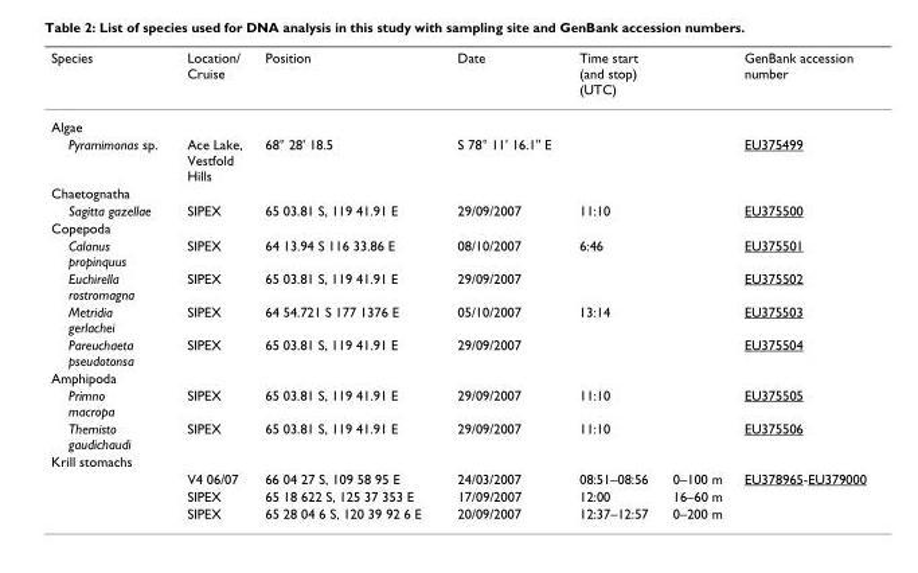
<table><thead><tr><td>Species</td><td>Location/ Cruise</td><td>Position</td><td>Date</td><td>Time start (and stop) (UTC)</td><td></td><td>GenBank accession number</td></tr></thead><tbody><tr><td colspan="7">Algae</td></tr><tr><td>Pyramimonas sp.</td><td>Ace Lake, Vestfold Hills</td><td>68° 28&#x27; 18.5</td><td>S 78° 11&#x27; 16.1&quot; E</td><td></td><td></td><td>EU375499</td></tr><tr><td colspan="7">Chaetognatha</td></tr><tr><td>Sagitta gazellae</td><td>SIPEX</td><td>65 03.81 S, 119 41.91 E</td><td>29/09/2007</td><td>11:10</td><td></td><td>EU375500</td></tr><tr><td colspan="7">Copepoda</td></tr><tr><td>Calanus propinquus</td><td>SIPEX</td><td>64 13.94 S 116 33.86 E</td><td>08/10/2007</td><td>6:46</td><td></td><td>EU375501</td></tr><tr><td>Euchirella rostromagna</td><td>SIPEX</td><td>65 03.81 S, 119 41.91 E</td><td>29/09/2007</td><td></td><td></td><td>EU375502</td></tr><tr><td>Metridia gerlachei</td><td>SIPEX</td><td>64 54.721 S 177 1376 E</td><td>05/10/2007</td><td>13:14</td><td></td><td>EU375503</td></tr><tr><td>Pareuchaeta pseudotonsa</td><td>SIPEX</td><td>65 03.81 S, 119 41.91 E</td><td>29/09/2007</td><td></td><td></td><td>EU375504</td></tr><tr><td colspan="7">Amphipoda</td></tr><tr><td>Primno macropa</td><td>SIPEX</td><td>65 03.81 S, 119 41.91 E</td><td>29/09/2007</td><td>11:10</td><td></td><td>EU375505</td></tr><tr><td>Themisto gaudichaudi</td><td>SIPEX</td><td>65 03.81 S, 119 41.91 E</td><td>29/09/2007</td><td>11:10</td><td></td><td>EU375506</td></tr><tr><td colspan="7">Krill stomachs</td></tr><tr><td></td><td>V4 06/07</td><td>66 04 27 S, 109 58 95 E</td><td>24/03/2007</td><td>08:51–08:56</td><td>0–100 m</td><td>EU378965-EU379000</td></tr><tr><td></td><td>SIPEX</td><td>65 18 622 S, 125 37 353 E</td><td>17/09/2007</td><td>12:00</td><td>16–60 m</td><td></td></tr><tr><td></td><td>SIPEX</td><td>65 28 04 6 S, 120 39 92 6 E</td><td>20/09/2007</td><td>12:37–12:57</td><td>0–200 m</td><td></td></tr></tbody></table>